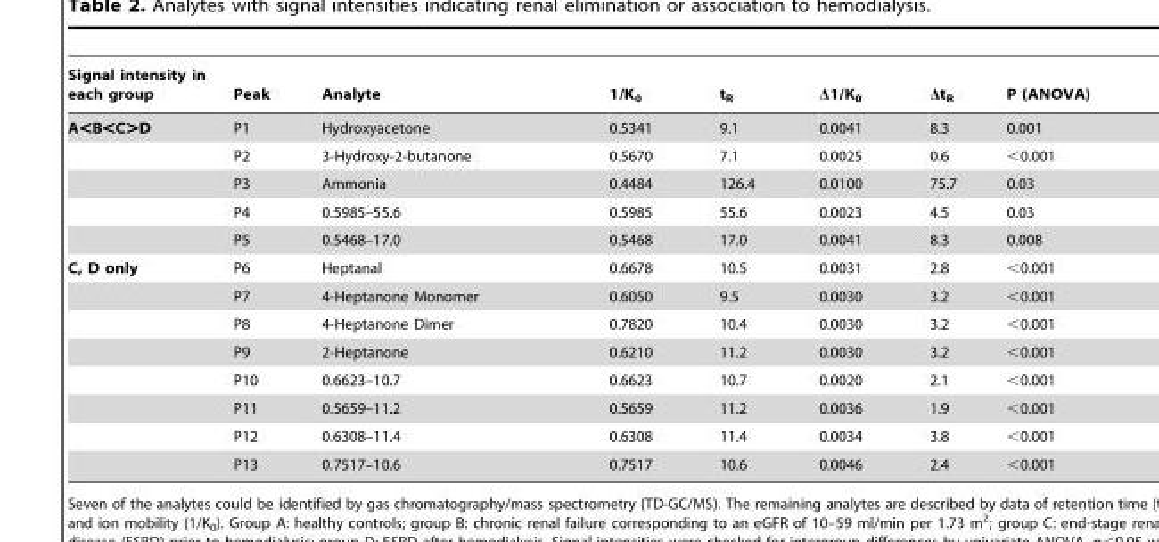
<table><thead><tr><td>Signal intensity in each group</td><td>Peak</td><td>Analyte</td><td>1/K<sub>0</sub></td><td>t<sub>R</sub></td><td>Δ1/K<sub>0</sub></td><td>Δt<sub>R</sub></td><td>P (ANOVA)</td></tr></thead><tbody><tr><td rowspan="5">A&lt;B&lt;C&gt;D</td><td>P1</td><td>Hydroxyacetone</td><td>0.5341</td><td>9.1</td><td>0.0041</td><td>8.3</td><td>0.001</td></tr><tr><td>P2</td><td>3-Hydroxy-2-butanone</td><td>0.5670</td><td>7.1</td><td>0.0025</td><td>0.6</td><td>&lt;0.001</td></tr><tr><td>P3</td><td>Ammonia</td><td>0.4484</td><td>126.4</td><td>0.0100</td><td>75.7</td><td>0.03</td></tr><tr><td>P4</td><td>0.5985–55.6</td><td>0.5985</td><td>55.6</td><td>0.0023</td><td>4.5</td><td>0.03</td></tr><tr><td>P5</td><td>0.5468–17.0</td><td>0.5468</td><td>17.0</td><td>0.0041</td><td>8.3</td><td>0.008</td></tr><tr><td rowspan="8">C, D only</td><td>P6</td><td>Heptanal</td><td>0.6678</td><td>10.5</td><td>0.0031</td><td>2.8</td><td>&lt;0.001</td></tr><tr><td>P7</td><td>4-Heptanone Monomer</td><td>0.6050</td><td>9.5</td><td>0.0030</td><td>3.2</td><td>&lt;0.001</td></tr><tr><td>P8</td><td>4-Heptanone Dimer</td><td>0.7820</td><td>10.4</td><td>0.0030</td><td>3.2</td><td>&lt;0.001</td></tr><tr><td>P9</td><td>2-Heptanone</td><td>0.6210</td><td>11.2</td><td>0.0030</td><td>3.2</td><td>&lt;0.001</td></tr><tr><td>P10</td><td>0.6623–10.7</td><td>0.6623</td><td>10.7</td><td>0.0020</td><td>2.1</td><td>&lt;0.001</td></tr><tr><td>P11</td><td>0.5659–11.2</td><td>0.5659</td><td>11.2</td><td>0.0036</td><td>1.9</td><td>&lt;0.001</td></tr><tr><td>P12</td><td>0.6308–11.4</td><td>0.6308</td><td>11.4</td><td>0.0034</td><td>3.8</td><td>&lt;0.001</td></tr><tr><td>P13</td><td>0.7517–10.6</td><td>0.7517</td><td>10.6</td><td>0.0046</td><td>2.4</td><td>&lt;0.001</td></tr></tbody></table>